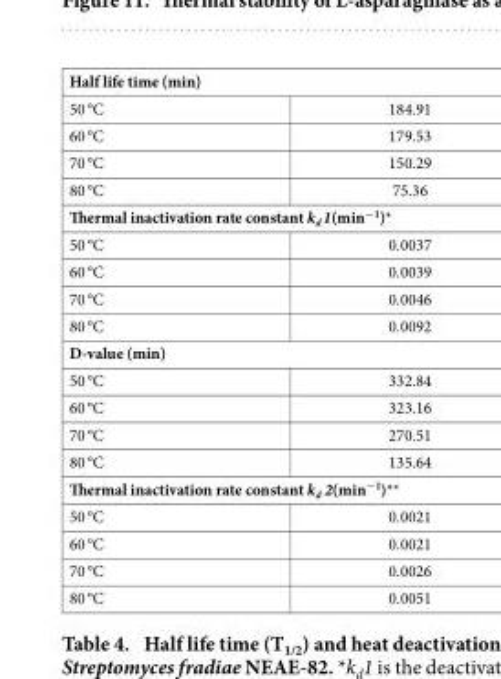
<table><tbody><tr><td colspan="2">Half life time (min)</td></tr><tr><td>50 °C</td><td>184.91</td></tr><tr><td>60 °C</td><td>179.53</td></tr><tr><td>70 °C</td><td>150.29</td></tr><tr><td>80 °C</td><td>75.36</td></tr><tr><td colspan="2">Thermal inactivation rate constant k<sub>d</sub> 1(min<sup>−1</sup>)*</td></tr><tr><td>50 °C</td><td>0.0037</td></tr><tr><td>60 °C</td><td>0.0039</td></tr><tr><td>70 °C</td><td>0.0046</td></tr><tr><td>80 °C</td><td>0.0092</td></tr><tr><td colspan="2">D-value (min)</td></tr><tr><td>50 °C</td><td>332.84</td></tr><tr><td>60 °C</td><td>323.16</td></tr><tr><td>70 °C</td><td>270.51</td></tr><tr><td>80 °C</td><td>135.64</td></tr><tr><td colspan="2">Thermal inactivation rate constant k<sub>d</sub> 2(min<sup>−1</sup>)**</td></tr><tr><td>50 °C</td><td>0.0021</td></tr><tr><td>60 °C</td><td>0.0021</td></tr><tr><td>70 °C</td><td>0.0026</td></tr><tr><td>80 °C</td><td>0.0051</td></tr></tbody></table>